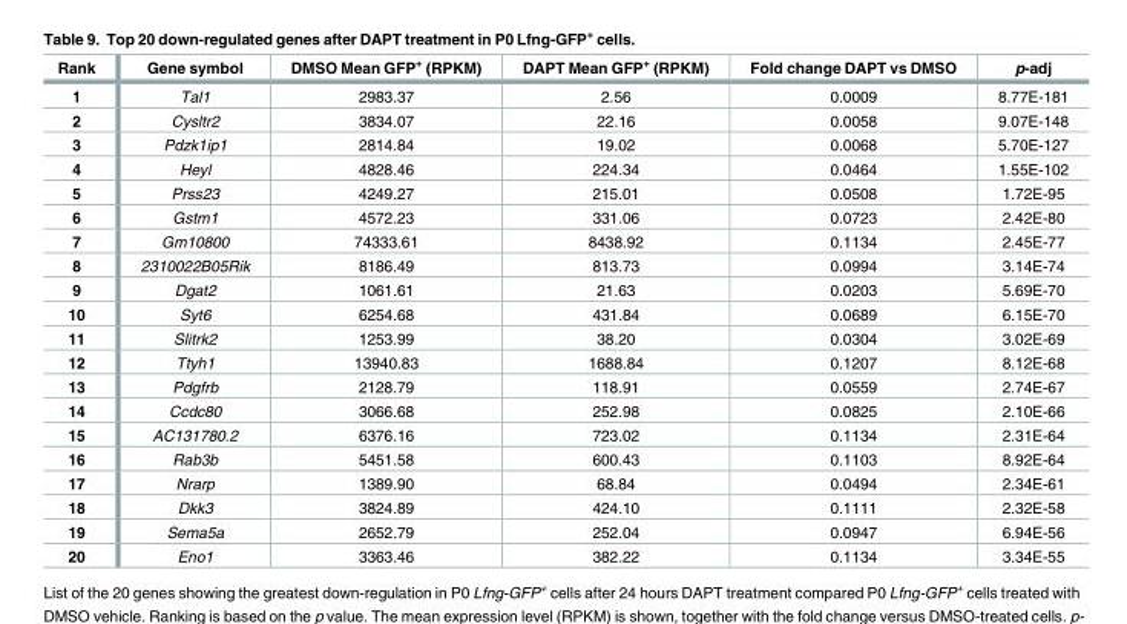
<table><thead><tr><td>Rank</td><td>Gene symbol</td><td>DMSO Mean GFP<sup>+</sup> (RPKM)</td><td>DAPT Mean GFP<sup>+</sup> (RPKM)</td><td>Fold change DAPT vs DMSO</td><td>p-adj</td></tr></thead><tbody><tr><td>1</td><td>Tal1</td><td>2983.37</td><td>2.56</td><td>0.0009</td><td>8.77E-181</td></tr><tr><td>2</td><td>Cysltr2</td><td>3834.07</td><td>22.16</td><td>0.0058</td><td>9.07E-148</td></tr><tr><td>3</td><td>Pdzk1ip1</td><td>2814.84</td><td>19.02</td><td>0.0068</td><td>5.70E-127</td></tr><tr><td>4</td><td>Heyl</td><td>4828.46</td><td>224.34</td><td>0.0464</td><td>1.55E-102</td></tr><tr><td>5</td><td>Prss23</td><td>4249.27</td><td>215.01</td><td>0.0508</td><td>1.72E-95</td></tr><tr><td>6</td><td>Gstm1</td><td>4572.23</td><td>331.06</td><td>0.0723</td><td>2.42E-80</td></tr><tr><td>7</td><td>Gm10800</td><td>74333.61</td><td>8438.92</td><td>0.1134</td><td>2.45E-77</td></tr><tr><td>8</td><td>2310022B05Rik</td><td>8186.49</td><td>813.73</td><td>0.0994</td><td>3.14E-74</td></tr><tr><td>9</td><td>Dgat2</td><td>1061.61</td><td>21.63</td><td>0.0203</td><td>5.69E-70</td></tr><tr><td>10</td><td>Syt6</td><td>6254.68</td><td>431.84</td><td>0.0689</td><td>6.15E-70</td></tr><tr><td>11</td><td>Slitrk2</td><td>1253.99</td><td>38.20</td><td>0.0304</td><td>3.02E-69</td></tr><tr><td>12</td><td>Ttyh1</td><td>13940.83</td><td>1688.84</td><td>0.1207</td><td>8.12E-68</td></tr><tr><td>13</td><td>Pdgfrb</td><td>2128.79</td><td>118.91</td><td>0.0559</td><td>2.74E-67</td></tr><tr><td>14</td><td>Ccdc80</td><td>3066.68</td><td>252.98</td><td>0.0825</td><td>2.10E-66</td></tr><tr><td>15</td><td>AC131780.2</td><td>6376.16</td><td>723.02</td><td>0.1134</td><td>2.31E-64</td></tr><tr><td>16</td><td>Rab3b</td><td>5451.58</td><td>600.43</td><td>0.1103</td><td>8.92E-64</td></tr><tr><td>17</td><td>Nrarp</td><td>1389.90</td><td>68.84</td><td>0.0494</td><td>2.34E-61</td></tr><tr><td>18</td><td>Dkk3</td><td>3824.89</td><td>424.10</td><td>0.1111</td><td>2.32E-58</td></tr><tr><td>19</td><td>Sema5a</td><td>2652.79</td><td>252.04</td><td>0.0947</td><td>6.94E-56</td></tr><tr><td>20</td><td>Eno1</td><td>3363.46</td><td>382.22</td><td>0.1134</td><td>3.34E-55</td></tr></tbody></table>